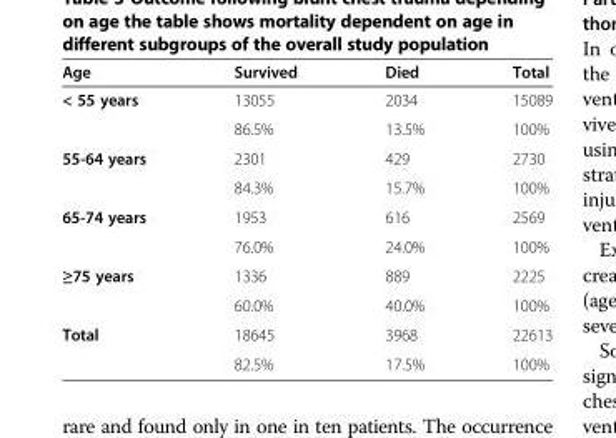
<table><thead><tr><td>Age</td><td>Survived</td><td>Died</td><td>Total</td></tr></thead><tbody><tr><td rowspan="2">&lt; 55 years</td><td>13055</td><td>2034</td><td>15089</td></tr><tr><td>86.5%</td><td>13.5%</td><td>100%</td></tr><tr><td rowspan="2">55-64 years</td><td>2301</td><td>429</td><td>2730</td></tr><tr><td>84.3%</td><td>15.7%</td><td>100%</td></tr><tr><td rowspan="2">65-74 years</td><td>1953</td><td>616</td><td>2569</td></tr><tr><td>76.0%</td><td>24.0%</td><td>100%</td></tr><tr><td rowspan="2">≥75 years</td><td>1336</td><td>889</td><td>2225</td></tr><tr><td>60.0%</td><td>40.0%</td><td>100%</td></tr><tr><td rowspan="2">Total</td><td>18645</td><td>3968</td><td>22613</td></tr><tr><td>82.5%</td><td>17.5%</td><td>100%</td></tr></tbody></table>